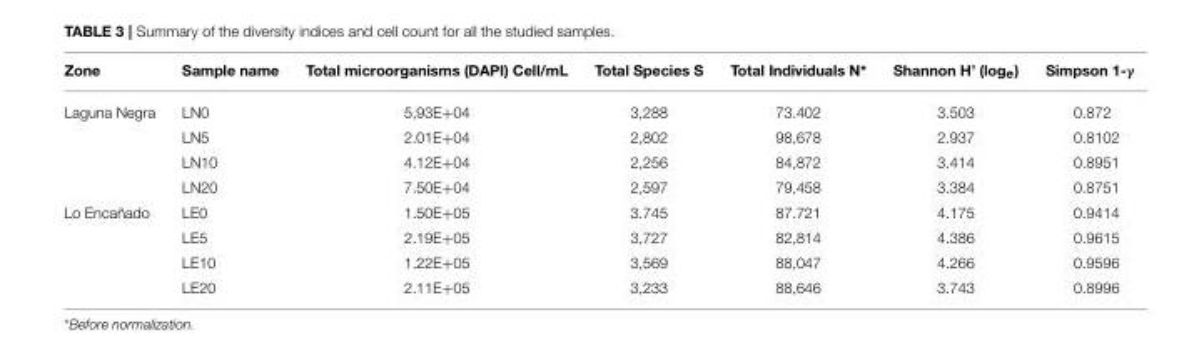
<table><thead><tr><td>Zone</td><td>Sample name</td><td>Total microorganisms (DAPI) Cell/mL</td><td>Total Species S</td><td>Total Individuals N*</td><td>Shannon H’ (log<sub>e</sub>)</td><td>Simpson 1-γ</td></tr></thead><tbody><tr><td rowspan="4">Laguna Negra</td><td>LN0</td><td>5,93E+04</td><td>3,288</td><td>73.402</td><td>3.503</td><td>0.872</td></tr><tr><td>LN5</td><td>2.01E+04</td><td>2,802</td><td>98,678</td><td>2.937</td><td>0.8102</td></tr><tr><td>LN10</td><td>4.12E+04</td><td>2,256</td><td>84,872</td><td>3.414</td><td>0.8951</td></tr><tr><td>LN20</td><td>7.50E+04</td><td>2,597</td><td>79,458</td><td>3.384</td><td>0.8751</td></tr><tr><td rowspan="4">Lo Encañado</td><td>LE0</td><td>1.50E+05</td><td>3.745</td><td>87.721</td><td>4.175</td><td>0.9414</td></tr><tr><td>LE5</td><td>2.19E+05</td><td>3,727</td><td>82,814</td><td>4.386</td><td>0.9615</td></tr><tr><td>LE10</td><td>1.22E+05</td><td>3,569</td><td>88,047</td><td>4.266</td><td>0.9596</td></tr><tr><td>LE20</td><td>2.11E+05</td><td>3,233</td><td>88,646</td><td>3.743</td><td>0.8996</td></tr></tbody></table>